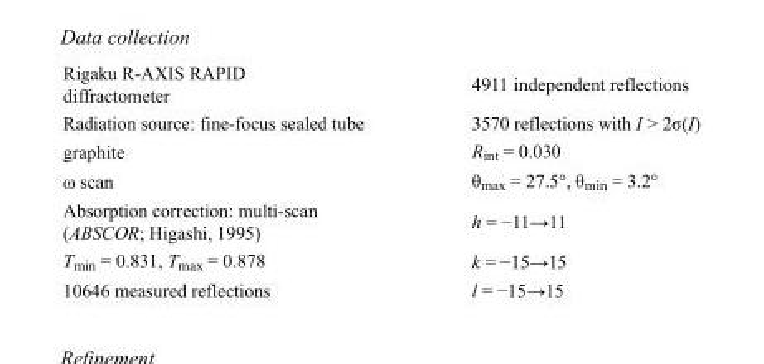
<table><tbody><tr><td>Rigaku R-AXIS RAPID diffractometer</td><td>4911 independent reflections</td></tr><tr><td>Radiation source: fine-focus sealed tube</td><td>3570 reflections with I &gt; 2σ(I)</td></tr><tr><td>graphite</td><td>R<sub>int</sub> = 0.030</td></tr><tr><td>ω scan</td><td>θ<sub>max</sub> = 27.5°, θ<sub>min</sub> = 3.2°</td></tr><tr><td>Absorption correction: multi-scan (ABSCOR; Higashi, 1995)</td><td>h = −11→11</td></tr><tr><td>T<sub>min</sub> = 0.831, T<sub>max</sub> = 0.878</td><td>k = −15→15</td></tr><tr><td>10646 measured reflections</td><td>l = −15→15</td></tr></tbody></table>